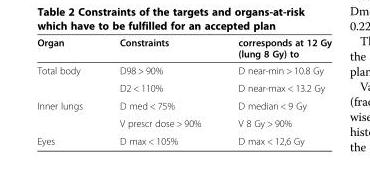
<table><thead><tr><td>Organ</td><td>Constraints</td><td>corresponds at 12 Gy (lung 8 Gy) to</td></tr></thead><tbody><tr><td rowspan="2">Total body</td><td>D98 &gt; 90%</td><td>D near-min &gt; 10.8 Gy</td></tr><tr><td>D2 &lt; 110%</td><td>D near-max &lt; 13.2 Gy</td></tr><tr><td rowspan="2">Inner lungs</td><td>D med &lt; 75%</td><td>D median &lt; 9 Gy</td></tr><tr><td>V prescr dose &gt; 90%</td><td>V 8 Gy &gt; 90%</td></tr><tr><td>Eyes</td><td>D max &lt; 105%</td><td>D max &lt; 12,6 Gy</td></tr></tbody></table>